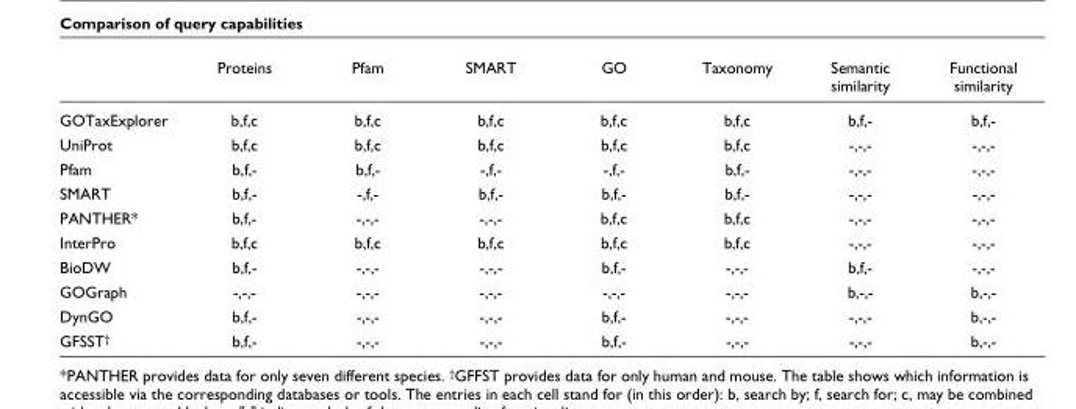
<table><thead><tr><td></td><td>Proteins</td><td>Pfam</td><td>SMART</td><td>GO</td><td>Taxonomy</td><td>Semantic similarity</td><td>Functional similarity</td></tr></thead><tbody><tr><td>GOTaxExplorer</td><td>b,f,c</td><td>b,f,c</td><td>b,f,c</td><td>b,f,c</td><td>b,f,c</td><td>b,f,-</td><td>b,f,-</td></tr><tr><td>UniProt</td><td>b,f,c</td><td>b,f,c</td><td>b,f,c</td><td>b,f,c</td><td>b,f,c</td><td>-,-,-</td><td>-,-,-</td></tr><tr><td>Pfam</td><td>b,f,-</td><td>b,f,-</td><td>-,f,-</td><td>-,f,-</td><td>b,f,-</td><td>-,-,-</td><td>-,-,-</td></tr><tr><td>SMART</td><td>b,f,-</td><td>-,f,-</td><td>b,f,-</td><td>b,f,-</td><td>b,f,-</td><td>-,-,-</td><td>-,-,-</td></tr><tr><td>PANTHER*</td><td>b,f,-</td><td>-,-,-</td><td>-,-,-</td><td>b,f,c</td><td>b,f,c</td><td>-,-,-</td><td>-,-,-</td></tr><tr><td>InterPro</td><td>b,f,c</td><td>b,f,c</td><td>b,f,c</td><td>b,f,c</td><td>b,f,c</td><td>-,-,-</td><td>-,-,-</td></tr><tr><td>BioDW</td><td>b,f,-</td><td>-,-,-</td><td>-,-,-</td><td>b,f,-</td><td>-,-,-</td><td>b,f,-</td><td>-,-,-</td></tr><tr><td>GOGraph</td><td>-,-,-</td><td>-,-,-</td><td>-,-,-</td><td>-,-,-</td><td>-,-,-</td><td>b,-,-</td><td>b,-,-</td></tr><tr><td>DynGO</td><td>b,f,-</td><td>-,-,-</td><td>-,-,-</td><td>b,f,-</td><td>-,-,-</td><td>-,-,-</td><td>b,-,-</td></tr><tr><td>GFSST<sup>†</sup></td><td>b,f,-</td><td>-,-,-</td><td>-,-,-</td><td>b,f,-</td><td>-,-,-</td><td>-,-,-</td><td>b,-,-</td></tr></tbody></table>